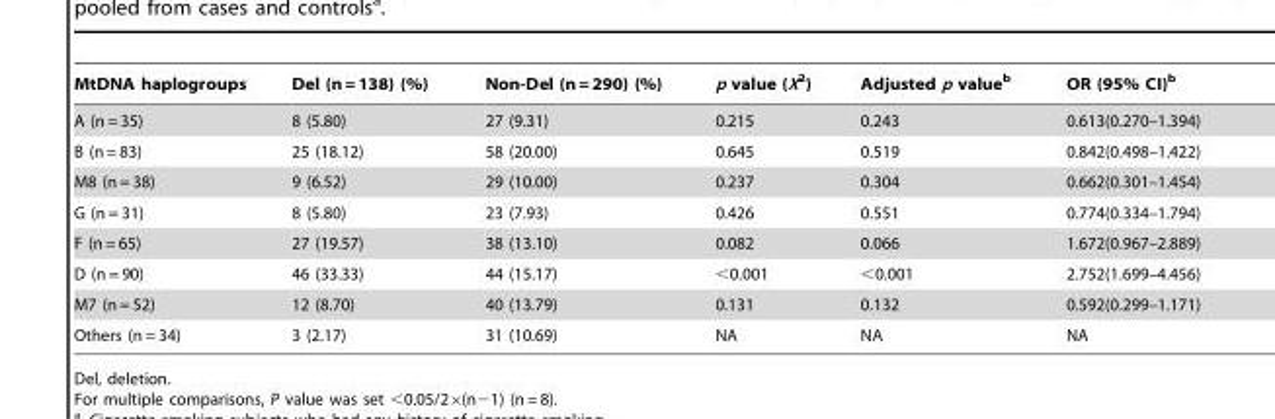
<table><thead><tr><td>MtDNA haplogroups</td><td>Del (n = 138) (%)</td><td>Non-Del (n = 290) (%)</td><td>p value (X<sup>2</sup>)</td><td>Adjusted p value<sup>b</sup></td><td>OR (95% CI)<sup>b</sup></td></tr></thead><tbody><tr><td>A (n = 35)</td><td>8 (5.80)</td><td>27 (9.31)</td><td>0.215</td><td>0.243</td><td>0.613(0.270–1.394)</td></tr><tr><td>B (n = 83)</td><td>25 (18.12)</td><td>58 (20.00)</td><td>0.645</td><td>0.519</td><td>0.842(0.498–1.422)</td></tr><tr><td>M8 (n = 38)</td><td>9 (6.52)</td><td>29 (10.00)</td><td>0.237</td><td>0.304</td><td>0.662(0.301–1.454)</td></tr><tr><td>G (n = 31)</td><td>8 (5.80)</td><td>23 (7.93)</td><td>0.426</td><td>0.551</td><td>0.774(0.334–1.794)</td></tr><tr><td>F (n = 65)</td><td>27 (19.57)</td><td>38 (13.10)</td><td>0.082</td><td>0.066</td><td>1.672(0.967–2.889)</td></tr><tr><td>D (n = 90)</td><td>46 (33.33)</td><td>44 (15.17)</td><td>&lt;0.001</td><td>&lt;0.001</td><td>2.752(1.699–4.456)</td></tr><tr><td>M7 (n = 52)</td><td>12 (8.70)</td><td>40 (13.79)</td><td>0.131</td><td>0.132</td><td>0.592(0.299–1.171)</td></tr><tr><td>Others (n = 34)</td><td>3 (2.17)</td><td>31 (10.69)</td><td>NA</td><td>NA</td><td>NA</td></tr></tbody></table>